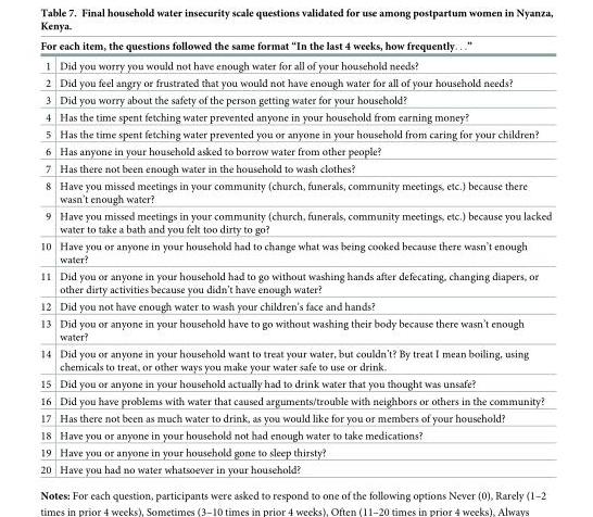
<table><thead><tr><td colspan="2">For each item, the questions followed the same format “In the last 4 weeks, how frequently. . .”</td></tr><tr><td>1</td><td>Did you worry you would not have enough water for all of your household needs?</td></tr></thead><tbody><tr><td>2</td><td>Did you feel angry or frustrated that you would not have enough water for all of your household needs?</td></tr><tr><td>3</td><td>Did you worry about the safety of the person getting water for your household?</td></tr><tr><td>4</td><td>Has the time spent fetching water prevented anyone in your household from earning money?</td></tr><tr><td>5</td><td>Has the time spent fetching water prevented you or anyone in your household from caring for your children?</td></tr><tr><td>6</td><td>Has anyone in your household asked to borrow water from other people?</td></tr><tr><td>7</td><td>Has there not been enough water in the household to wash clothes?</td></tr><tr><td>8</td><td>Have you missed meetings in your community (church, funerals, community meetings, etc.) because there wasn’t enough water?</td></tr><tr><td>9</td><td>Have you missed meetings in your community (church, funerals, community meetings, etc.) because you lacked water to take a bath and you felt too dirty to go?</td></tr><tr><td>10</td><td>Have you or anyone in your household had to change what was being cooked because there wasn’t enough water?</td></tr><tr><td>11</td><td>Did you or anyone in your household had to go without washing hands after defecating, changing diapers, or other dirty activities because you didn’t have enough water?</td></tr><tr><td>12</td><td>Did you not have enough water to wash your children’s face and hands?</td></tr><tr><td>13</td><td>Did you or anyone in your household have to go without washing their body because there wasn’t enough water?</td></tr><tr><td>14</td><td>Did you or anyone in your household want to treat your water, but couldn’t? By treat I mean boiling, using chemicals to treat, or other ways you make your water safe to use or drink.</td></tr><tr><td>15</td><td>Did you or anyone in your household actually had to drink water that you thought was unsafe?</td></tr><tr><td>16</td><td>Did you have problems with water that caused arguments/trouble with neighbors or others in the community?</td></tr><tr><td>17</td><td>Has there not been as much water to drink, as you would like for you or members of your household?</td></tr><tr><td>18</td><td>Have you or anyone in your household not had enough water to take medications?</td></tr><tr><td>19</td><td>Have you or anyone in your household gone to sleep thirsty?</td></tr><tr><td>20</td><td>Have you had no water whatsoever in your household?</td></tr></tbody></table>